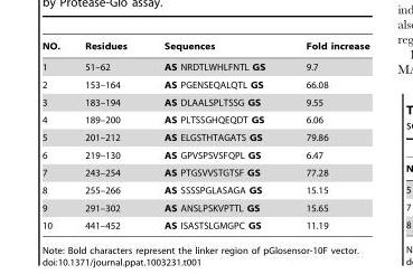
<table><thead><tr><td>NO.</td><td>Residues</td><td>Sequences</td><td>Fold increase</td></tr></thead><tbody><tr><td>1</td><td>51–62</td><td>AS NRDTLWHLFNTL GS</td><td>9.7</td></tr><tr><td>2</td><td>153–164</td><td>AS PGENSEQALQTL GS</td><td>66.08</td></tr><tr><td>3</td><td>183–194</td><td>AS DLAALSPLTSSG GS</td><td>9.55</td></tr><tr><td>4</td><td>189–200</td><td>AS PLTSSGHQEQDT GS</td><td>6.06</td></tr><tr><td>5</td><td>201–212</td><td>AS ELGSTHTAGATS GS</td><td>79.86</td></tr><tr><td>6</td><td>219–130</td><td>AS GPVSPSVSFQPL GS</td><td>6.47</td></tr><tr><td>7</td><td>243–254</td><td>AS PTGSVVSTGTSF GS</td><td>77.28</td></tr><tr><td>8</td><td>255–266</td><td>AS SSSSPGLASAGA GS</td><td>15.15</td></tr><tr><td>9</td><td>291–302</td><td>AS ANSLPSKVPTTL GS</td><td>15.65</td></tr><tr><td>10</td><td>441–452</td><td>AS ISASTSLGMGPC GS</td><td>11.19</td></tr></tbody></table>